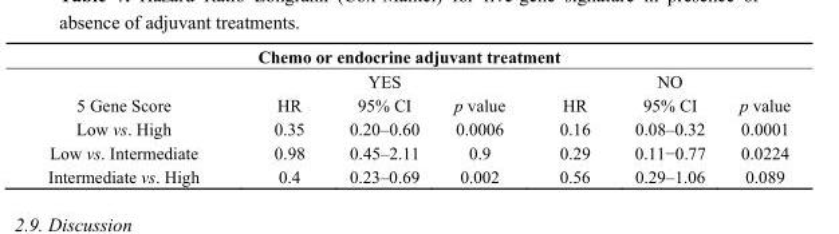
<table><thead><tr><td colspan="7">Chemo or endocrine adjuvant treatment</td></tr><tr><td rowspan="2">5 Gene Score</td><td colspan="3">YES</td><td colspan="3">NO</td></tr><tr><td>HR</td><td>95% CI</td><td>p value</td><td>HR</td><td>95% CI</td><td>p value</td></tr></thead><tbody><tr><td>Low vs. High</td><td>0.35</td><td>0.20–0.60</td><td>0.0006</td><td>0.16</td><td>0.08–0.32</td><td>0.0001</td></tr><tr><td>Low vs. Intermediate</td><td>0.98</td><td>0.45–2.11</td><td>0.9</td><td>0.29</td><td>0.11−0.77</td><td>0.0224</td></tr><tr><td>Intermediate vs. High</td><td>0.4</td><td>0.23–0.69</td><td>0.002</td><td>0.56</td><td>0.29–1.06</td><td>0.089</td></tr></tbody></table>